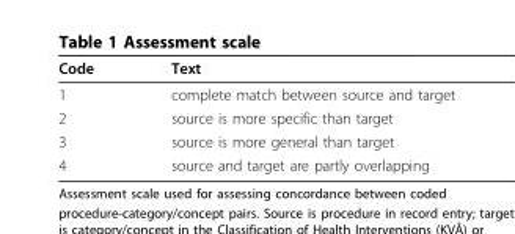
<table><thead><tr><td>Code</td><td>Text</td></tr></thead><tbody><tr><td>1</td><td>complete match between source and target</td></tr><tr><td>2</td><td>source is more specific than target</td></tr><tr><td>3</td><td>source is more general than target</td></tr><tr><td>4</td><td>source and target are partly overlapping</td></tr></tbody></table>